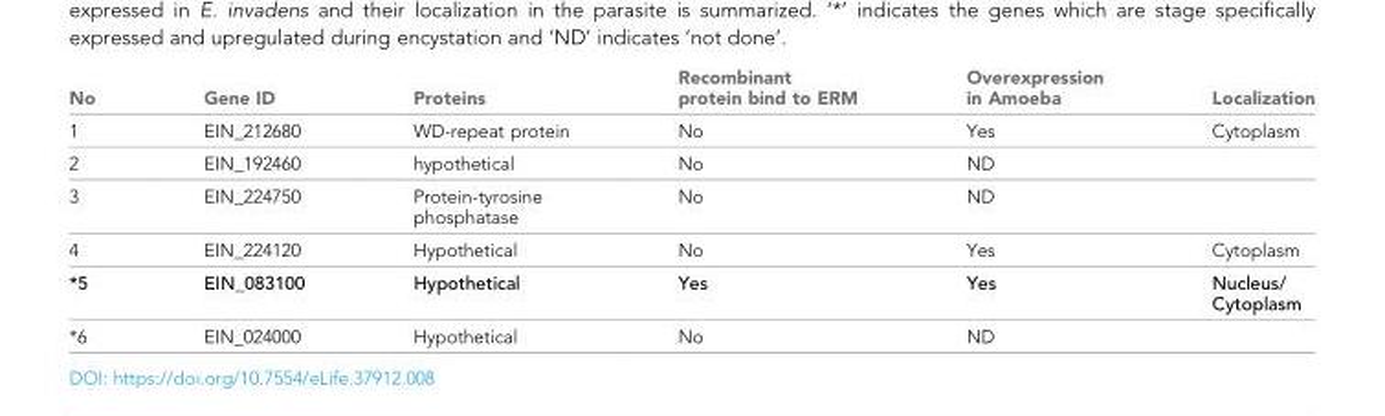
<table><thead><tr><td>No</td><td>Gene ID</td><td>Proteins</td><td>Recombinant protein bind to ERM</td><td>Overexpression in Amoeba</td><td>Localization</td></tr></thead><tbody><tr><td>1</td><td>EIN_212680</td><td>WD-repeat protein</td><td>No</td><td>Yes</td><td>Cytoplasm</td></tr><tr><td>2</td><td>EIN_192460</td><td>hypothetical</td><td>No</td><td>ND</td><td></td></tr><tr><td>3</td><td>EIN_224750</td><td>Protein-tyrosine phosphatase</td><td>No</td><td>ND</td><td></td></tr><tr><td>4</td><td>EIN_224120</td><td>Hypothetical</td><td>No</td><td>Yes</td><td>Cytoplasm</td></tr><tr><td>*5</td><td>EIN_083100</td><td>Hypothetical</td><td>Yes</td><td>Yes</td><td>Nucleus/ Cytoplasm</td></tr><tr><td>*6</td><td>EIN_024000</td><td>Hypothetical</td><td>No</td><td>ND</td><td></td></tr></tbody></table>